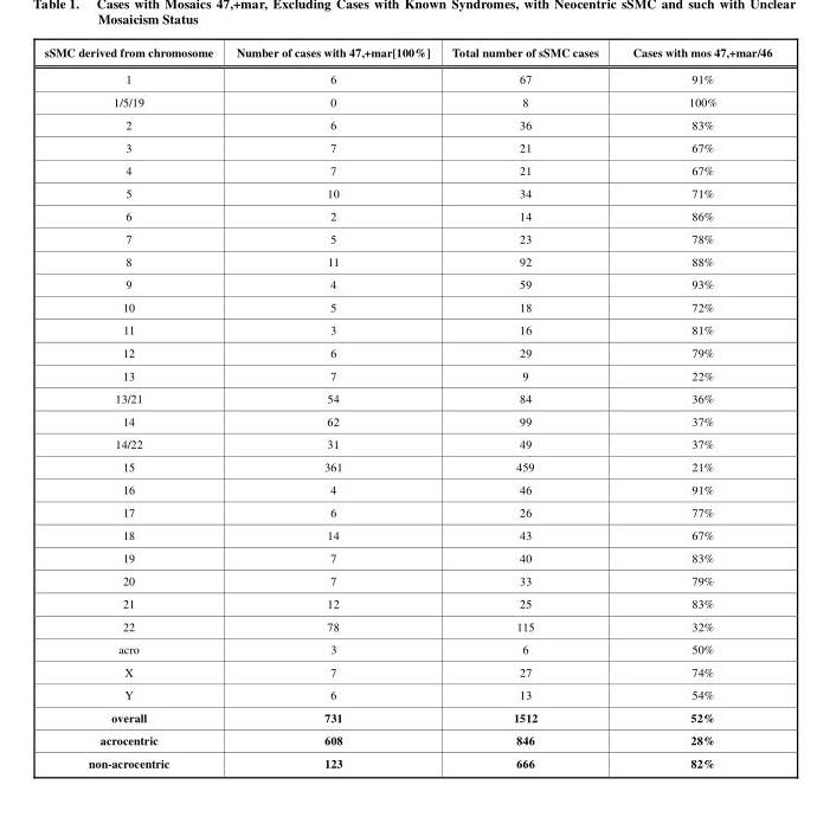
<table><thead><tr><td>sSMC derived from chromosome</td><td>Number of cases with 47,+mar[100%]</td><td>Total number of sSMC cases</td><td>Cases with mos 47,+mar/46</td></tr></thead><tbody><tr><td>1</td><td>6</td><td>67</td><td>91%</td></tr><tr><td>1/5/19</td><td>0</td><td>8</td><td>100%</td></tr><tr><td>2</td><td>6</td><td>36</td><td>83%</td></tr><tr><td>3</td><td>7</td><td>21</td><td>67%</td></tr><tr><td>4</td><td>7</td><td>21</td><td>67%</td></tr><tr><td>5</td><td>10</td><td>34</td><td>71%</td></tr><tr><td>6</td><td>2</td><td>14</td><td>86%</td></tr><tr><td>7</td><td>5</td><td>23</td><td>78%</td></tr><tr><td>8</td><td>11</td><td>92</td><td>88%</td></tr><tr><td>9</td><td>4</td><td>59</td><td>93%</td></tr><tr><td>10</td><td>5</td><td>18</td><td>72%</td></tr><tr><td>11</td><td>3</td><td>16</td><td>81%</td></tr><tr><td>12</td><td>6</td><td>29</td><td>79%</td></tr><tr><td>13</td><td>7</td><td>9</td><td>22%</td></tr><tr><td>13/21</td><td>54</td><td>84</td><td>36%</td></tr><tr><td>14</td><td>62</td><td>99</td><td>37%</td></tr><tr><td>14/22</td><td>31</td><td>49</td><td>37%</td></tr><tr><td>15</td><td>361</td><td>459</td><td>21%</td></tr><tr><td>16</td><td>4</td><td>46</td><td>91%</td></tr><tr><td>17</td><td>6</td><td>26</td><td>77%</td></tr><tr><td>18</td><td>14</td><td>43</td><td>67%</td></tr><tr><td>19</td><td>7</td><td>40</td><td>83%</td></tr><tr><td>20</td><td>7</td><td>33</td><td>79%</td></tr><tr><td>21</td><td>12</td><td>25</td><td>83%</td></tr><tr><td>22</td><td>78</td><td>115</td><td>32%</td></tr><tr><td>acro</td><td>3</td><td>6</td><td>50%</td></tr><tr><td>X</td><td>7</td><td>27</td><td>74%</td></tr><tr><td>Y</td><td>6</td><td>13</td><td>54%</td></tr><tr><td>overall</td><td>731</td><td>1512</td><td>52%</td></tr><tr><td>acrocentric</td><td>608</td><td>846</td><td>28%</td></tr><tr><td>non-acrocentric</td><td>123</td><td>666</td><td>82%</td></tr></tbody></table>